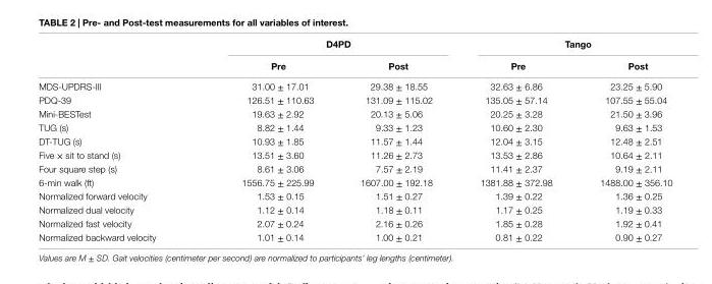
<table><thead><tr><td rowspan="2"></td><td colspan="2">D4PD</td><td colspan="2">Tango</td></tr><tr><td>Pre</td><td>Post</td><td>Pre</td><td>Post</td></tr></thead><tbody><tr><td>MDS-UPDRS-III</td><td>31.00 ± 17.01</td><td>29.38 ± 18.55</td><td>32.63 ± 6.86</td><td>23.25 ± 5.90</td></tr><tr><td>PDQ-39</td><td>126.51 ± 110.63</td><td>131.09 ± 115.02</td><td>135.05 ± 57.14</td><td>107.55 ± 55.04</td></tr><tr><td>Mini-BESTest</td><td>19.63 ± 2.92</td><td>20.13 ± 5.06</td><td>20.25 ± 3.28</td><td>21.50 ± 3.96</td></tr><tr><td>TUG (s)</td><td>8.82 ± 1.44</td><td>9.33 ± 1.23</td><td>10.60 ± 2.30</td><td>9.63 ± 1.53</td></tr><tr><td>DT-TUG (s)</td><td>10.93 ± 1.85</td><td>11.57 ± 1.44</td><td>12.04 ± 3.15</td><td>12.48 ± 2.51</td></tr><tr><td>Five × sit to stand (s)</td><td>13.51 ± 3.60</td><td>11.26 ± 2.73</td><td>13.53 ± 2.86</td><td>10.64 ± 2.11</td></tr><tr><td>Four square step (s)</td><td>8.61 ± 3.06</td><td>7.57 ± 2.19</td><td>11.41 ± 2.37</td><td>9.19 ± 2.11</td></tr><tr><td>6-min walk (ft)</td><td>1556.75 ± 225.99</td><td>1607.00 ± 192.18</td><td>1381.88 ± 372.98</td><td>1488.00 ± 356.10</td></tr><tr><td>Normalized forward velocity</td><td>1.53 ± 0.15</td><td>1.51 ± 0.27</td><td>1.39 ± 0.22</td><td>1.36 ± 0.25</td></tr><tr><td>Normalized dual velocity</td><td>1.12 ± 0.14</td><td>1.18 ± 0.11</td><td>1.17 ± 0.25</td><td>1.19 ± 0.33</td></tr><tr><td>Normalized fast velocity</td><td>2.07 ± 0.24</td><td>2.16 ± 0.26</td><td>1.85 ± 0.28</td><td>1.92 ± 0.41</td></tr><tr><td>Normalized backward velocity</td><td>1.01 ± 0.14</td><td>1.00 ± 0.21</td><td>0.81 ± 0.22</td><td>0.90 ± 0.27</td></tr></tbody></table>